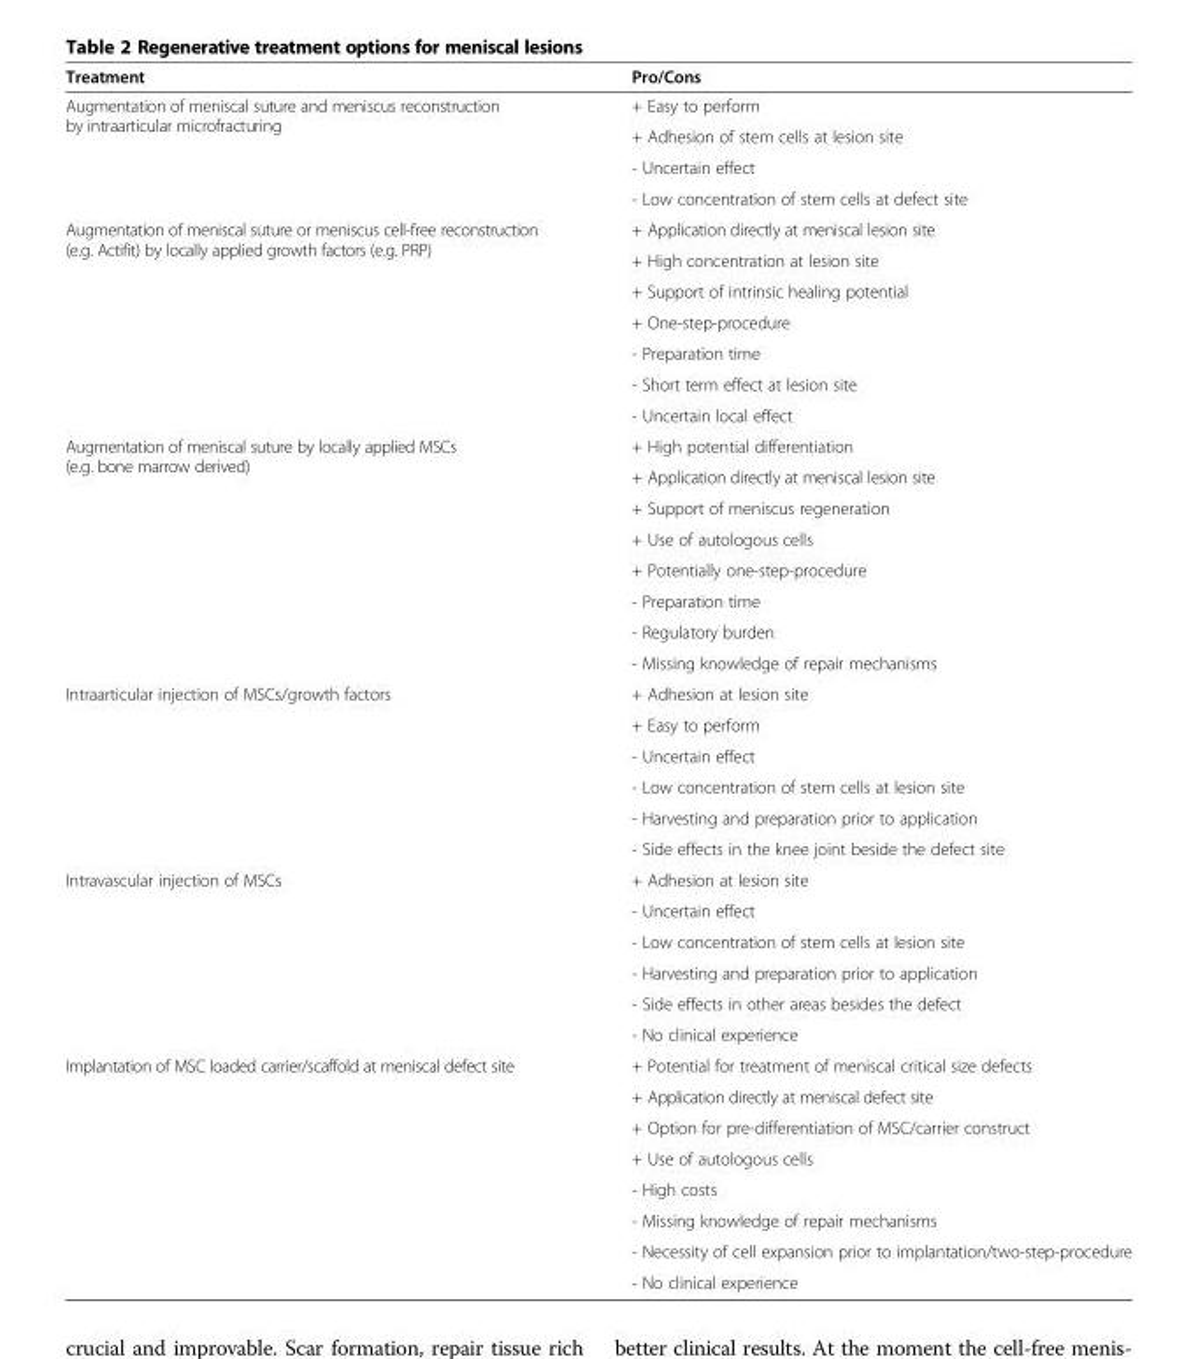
<table><thead><tr><td>Treatment</td><td>Pro/Cons</td></tr></thead><tbody><tr><td rowspan="4">Augmentation of meniscal suture and meniscus reconstruction by intraarticular microfracturing</td><td>+ Easy to perform</td></tr><tr><td>+ Adhesion of stem cells at lesion site</td></tr><tr><td>- Uncertain effect</td></tr><tr><td>- Low concentration of stem cells at defect site</td></tr><tr><td rowspan="7">Augmentation of meniscal suture or meniscus cell-free reconstruction (e.g. Actifit) by locally applied growth factors (e.g. PRP)</td><td>+ Application directly at meniscal lesion site</td></tr><tr><td>+ High concentration at lesion site</td></tr><tr><td>+ Support of intrinsic healing potential</td></tr><tr><td>+ One-step-procedure</td></tr><tr><td>- Preparation time</td></tr><tr><td>- Short term effect at lesion site</td></tr><tr><td>- Uncertain local effect</td></tr><tr><td rowspan="8">Augmentation of meniscal suture by locally applied MSCs (e.g. bone marrow derived)</td><td>+ High potential differentiation</td></tr><tr><td>+ Application directly at meniscal lesion site</td></tr><tr><td>+ Support of meniscus regeneration</td></tr><tr><td>+ Use of autologous cells</td></tr><tr><td>+ Potentially one-step-procedure</td></tr><tr><td>- Preparation time</td></tr><tr><td>- Regulatory burden</td></tr><tr><td>- Missing knowledge of repair mechanisms</td></tr><tr><td rowspan="6">Intraarticular injection of MSCs/growth factors</td><td>+ Adhesion at lesion site</td></tr><tr><td>+ Easy to perform</td></tr><tr><td>- Uncertain effect</td></tr><tr><td>- Low concentration of stem cells at lesion site</td></tr><tr><td>- Harvesting and preparation prior to application</td></tr><tr><td>- Side effects in the knee joint beside the defect site</td></tr><tr><td rowspan="6">Intravascular injection of MSCs</td><td>+ Adhesion at lesion site</td></tr><tr><td>- Uncertain effect</td></tr><tr><td>- Low concentration of stem cells at lesion site</td></tr><tr><td>- Harvesting and preparation prior to application</td></tr><tr><td>- Side effects in other areas besides the defect</td></tr><tr><td>- No clinical experience</td></tr><tr><td rowspan="8">Implantation of MSC loaded carrier/scaffold at meniscal defect site</td><td>+ Potential for treatment of meniscal critical size defects</td></tr><tr><td>+ Application directly at meniscal defect site</td></tr><tr><td>+ Option for pre-differentiation of MSC/carrier construct</td></tr><tr><td>+ Use of autologous cells</td></tr><tr><td>- High costs</td></tr><tr><td>- Missing knowledge of repair mechanisms</td></tr><tr><td>- Necessity of cell expansion prior to implantation/two-step-procedure</td></tr><tr><td>- No clinical experience</td></tr></tbody></table>